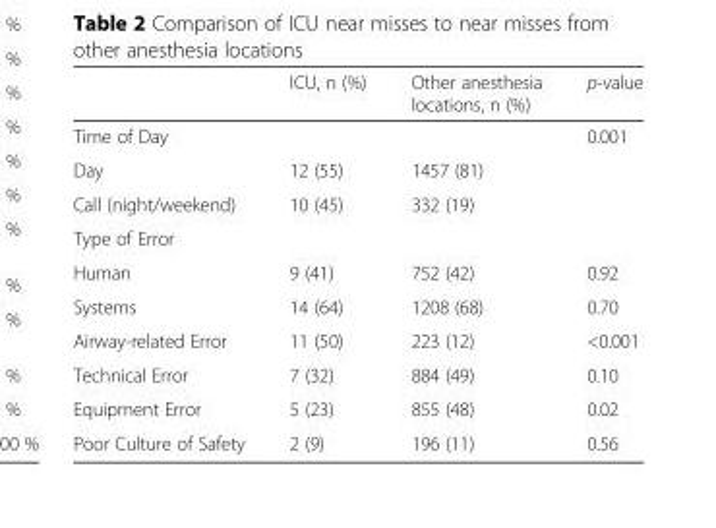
<table><thead><tr><td></td><td>ICU, n (%)</td><td>Other anesthesia locations, n (%)</td><td>p-value</td></tr></thead><tbody><tr><td>Time of Day</td><td></td><td></td><td>0.001</td></tr><tr><td>Day</td><td>12 (55)</td><td>1457 (81)</td><td></td></tr><tr><td>Call (night/weekend)</td><td>10 (45)</td><td>332 (19)</td><td></td></tr><tr><td colspan="4">Type of Error</td></tr><tr><td>Human</td><td>9 (41)</td><td>752 (42)</td><td>0.92</td></tr><tr><td>Systems</td><td>14 (64)</td><td>1208 (68)</td><td>0.70</td></tr><tr><td>Airway-related Error</td><td>11 (50)</td><td>223 (12)</td><td>&lt;0.001</td></tr><tr><td>Technical Error</td><td>7 (32)</td><td>884 (49)</td><td>0.10</td></tr><tr><td>Equipment Error</td><td>5 (23)</td><td>855 (48)</td><td>0.02</td></tr><tr><td>Poor Culture of Safety</td><td>2 (9)</td><td>196 (11)</td><td>0.56</td></tr></tbody></table>